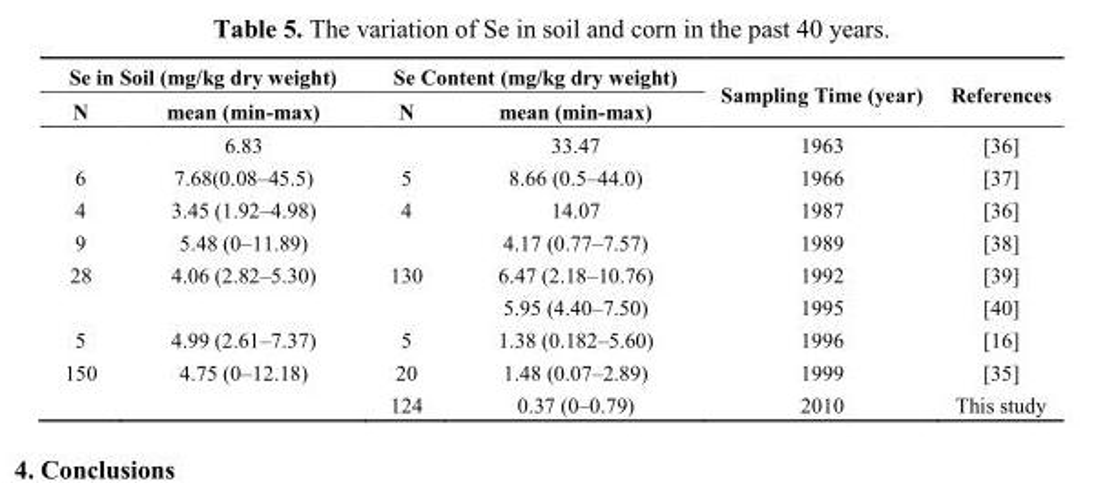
<table><thead><tr><td colspan="2">Se in Soil (mg/kg dry weight)</td><td colspan="2">Se Content (mg/kg dry weight)</td><td rowspan="2">Sampling Time (year)</td><td rowspan="2">References</td></tr><tr><td>N</td><td>mean (min-max)</td><td>N</td><td>mean (min-max)</td></tr></thead><tbody><tr><td></td><td>6.83</td><td></td><td>33.47</td><td>1963</td><td>[36]</td></tr><tr><td>6</td><td>7.68(0.08–45.5)</td><td>5</td><td>8.66 (0.5–44.0)</td><td>1966</td><td>[37]</td></tr><tr><td>4</td><td>3.45 (1.92–4.98)</td><td>4</td><td>14.07</td><td>1987</td><td>[36]</td></tr><tr><td>9</td><td>5.48 (0–11.89)</td><td></td><td>4.17 (0.77–7.57)</td><td>1989</td><td>[38]</td></tr><tr><td rowspan="2">28</td><td>4.06 (2.82–5.30)</td><td>130</td><td>6.47 (2.18–10.76)</td><td>1992</td><td>[39]</td></tr><tr><td></td><td></td><td>5.95 (4.40–7.50)</td><td>1995</td><td>[40]</td></tr><tr><td>5</td><td>4.99 (2.61–7.37)</td><td>5</td><td>1.38 (0.182–5.60)</td><td>1996</td><td>[16]</td></tr><tr><td rowspan="2">150</td><td>4.75 (0–12.18)</td><td>20</td><td>1.48 (0.07–2.89)</td><td>1999</td><td>[35]</td></tr><tr><td></td><td>124</td><td>0.37 (0–0.79)</td><td>2010</td><td>This study</td></tr></tbody></table>